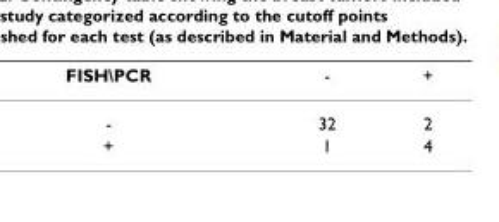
<table><thead><tr><td>FISH\PCR</td><td>-</td><td>+</td></tr></thead><tbody><tr><td>-</td><td>32</td><td>2</td></tr><tr><td>+</td><td>1</td><td>4</td></tr></tbody></table>